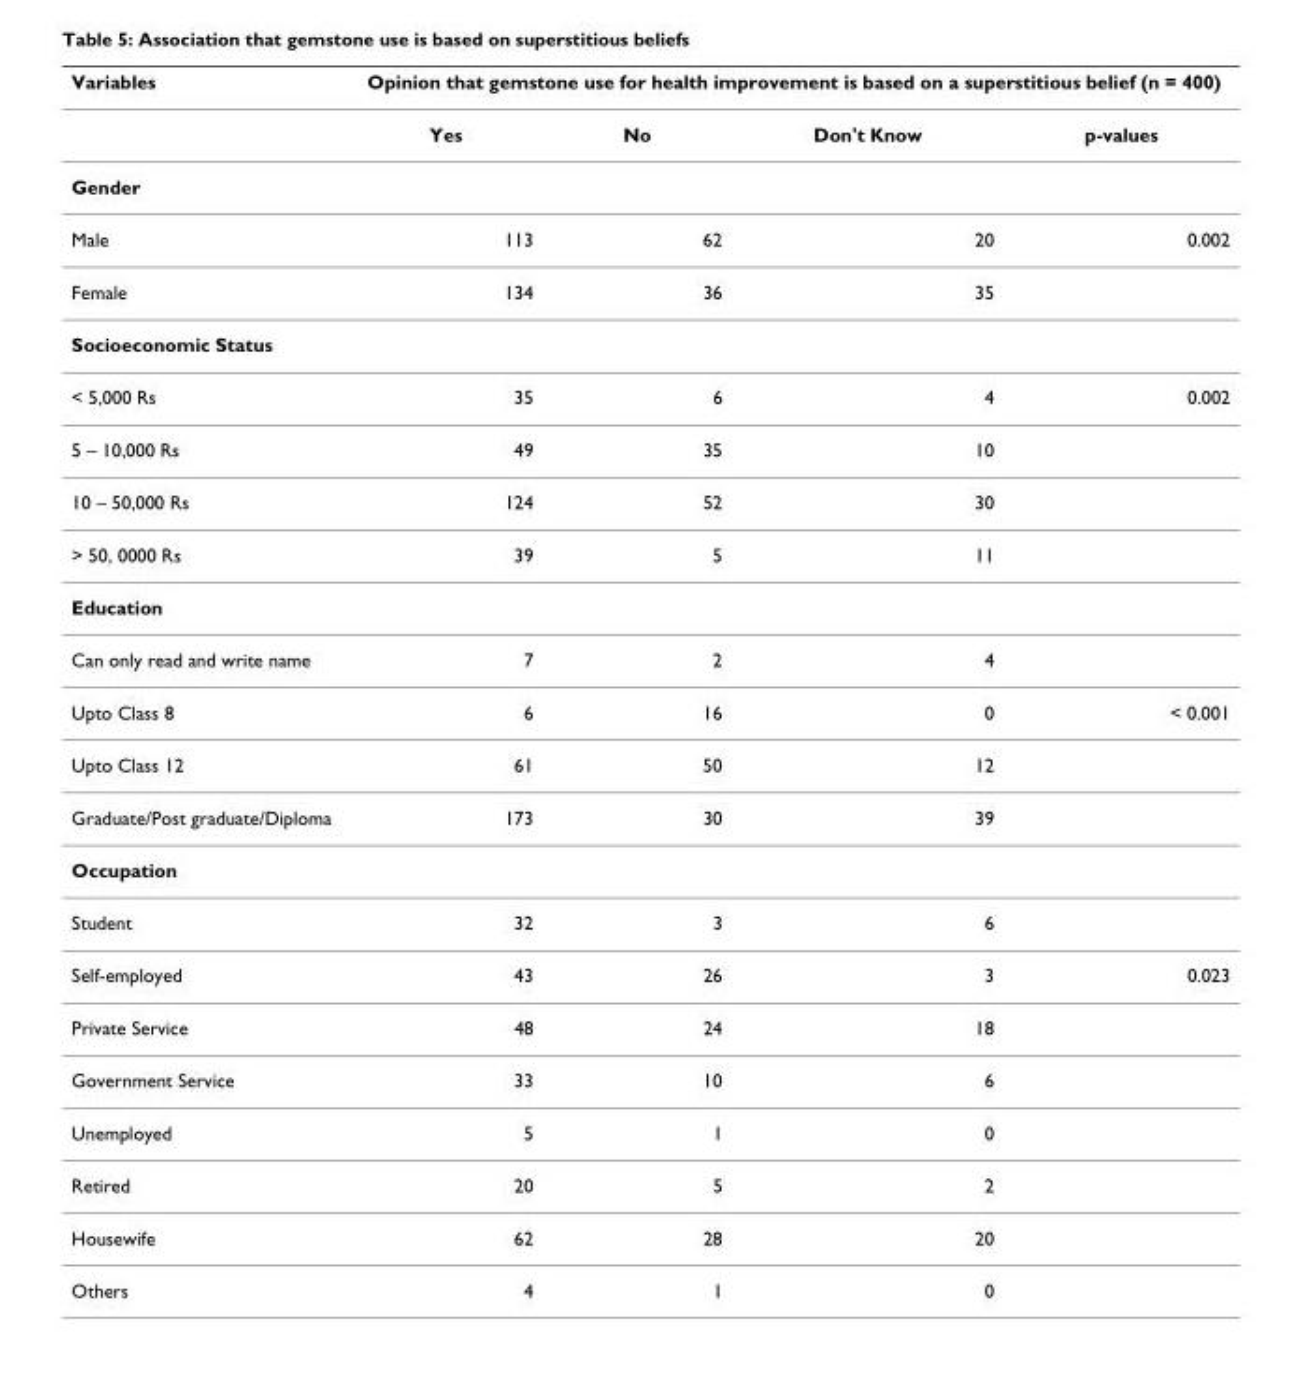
<table><thead><tr><td rowspan="2">Variables</td><td colspan="4">Opinion that gemstone use for health improvement is based on a superstitious belief (n = 400)</td></tr><tr><td>Yes</td><td>No</td><td>Don&#x27;t Know</td><td>p-values</td></tr></thead><tbody><tr><td colspan="5">Gender</td></tr><tr><td>Male</td><td>113</td><td>62</td><td>20</td><td>0.002</td></tr><tr><td>Female</td><td>134</td><td>36</td><td>35</td><td></td></tr><tr><td colspan="5">Socioeconomic Status</td></tr><tr><td>&lt; 5,000 Rs</td><td>35</td><td>6</td><td>4</td><td>0.002</td></tr><tr><td>5 – 10,000 Rs</td><td>49</td><td>35</td><td>10</td><td></td></tr><tr><td>10 – 50,000 Rs</td><td>124</td><td>52</td><td>30</td><td></td></tr><tr><td>&gt; 50, 0000 Rs</td><td>39</td><td>5</td><td>11</td><td></td></tr><tr><td colspan="5">Education</td></tr><tr><td>Can only read and write name</td><td>7</td><td>2</td><td>4</td><td></td></tr><tr><td>Upto Class 8</td><td>6</td><td>16</td><td>0</td><td>&lt; 0.001</td></tr><tr><td>Upto Class 12</td><td>61</td><td>50</td><td>12</td><td></td></tr><tr><td>Graduate/Post graduate/Diploma</td><td>173</td><td>30</td><td>39</td><td></td></tr><tr><td colspan="5">Occupation</td></tr><tr><td>Student</td><td>32</td><td>3</td><td>6</td><td></td></tr><tr><td>Self-employed</td><td>43</td><td>26</td><td>3</td><td>0.023</td></tr><tr><td>Private Service</td><td>48</td><td>24</td><td>18</td><td></td></tr><tr><td>Government Service</td><td>33</td><td>10</td><td>6</td><td></td></tr><tr><td>Unemployed</td><td>5</td><td>1</td><td>0</td><td></td></tr><tr><td>Retired</td><td>20</td><td>5</td><td>2</td><td></td></tr><tr><td>Housewife</td><td>62</td><td>28</td><td>20</td><td></td></tr><tr><td>Others</td><td>4</td><td>1</td><td>0</td><td></td></tr></tbody></table>